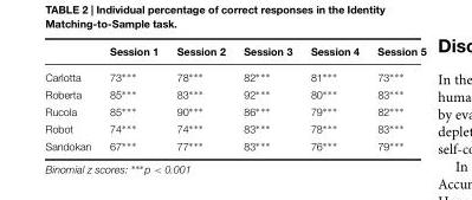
<table><thead><tr><td></td><td>Session 1</td><td>Session 2</td><td>Session 3</td><td>Session 4</td><td>Session 5</td></tr></thead><tbody><tr><td>Carlotta</td><td>73∗∗∗</td><td>78∗∗∗</td><td>82∗∗∗</td><td>81∗∗∗</td><td>73∗∗∗</td></tr><tr><td>Roberta</td><td>85∗∗∗</td><td>83∗∗∗</td><td>92∗∗∗</td><td>80∗∗∗</td><td>83∗∗∗</td></tr><tr><td>Rucola</td><td>85∗∗∗</td><td>90∗∗∗</td><td>86∗∗∗</td><td>79∗∗∗</td><td>82∗∗∗</td></tr><tr><td>Robot</td><td>74∗∗∗</td><td>74∗∗∗</td><td>83∗∗∗</td><td>78∗∗∗</td><td>83∗∗∗</td></tr><tr><td>Sandokan</td><td>67∗∗∗</td><td>77∗∗∗</td><td>83∗∗∗</td><td>76∗∗∗</td><td>79∗∗∗</td></tr></tbody></table>